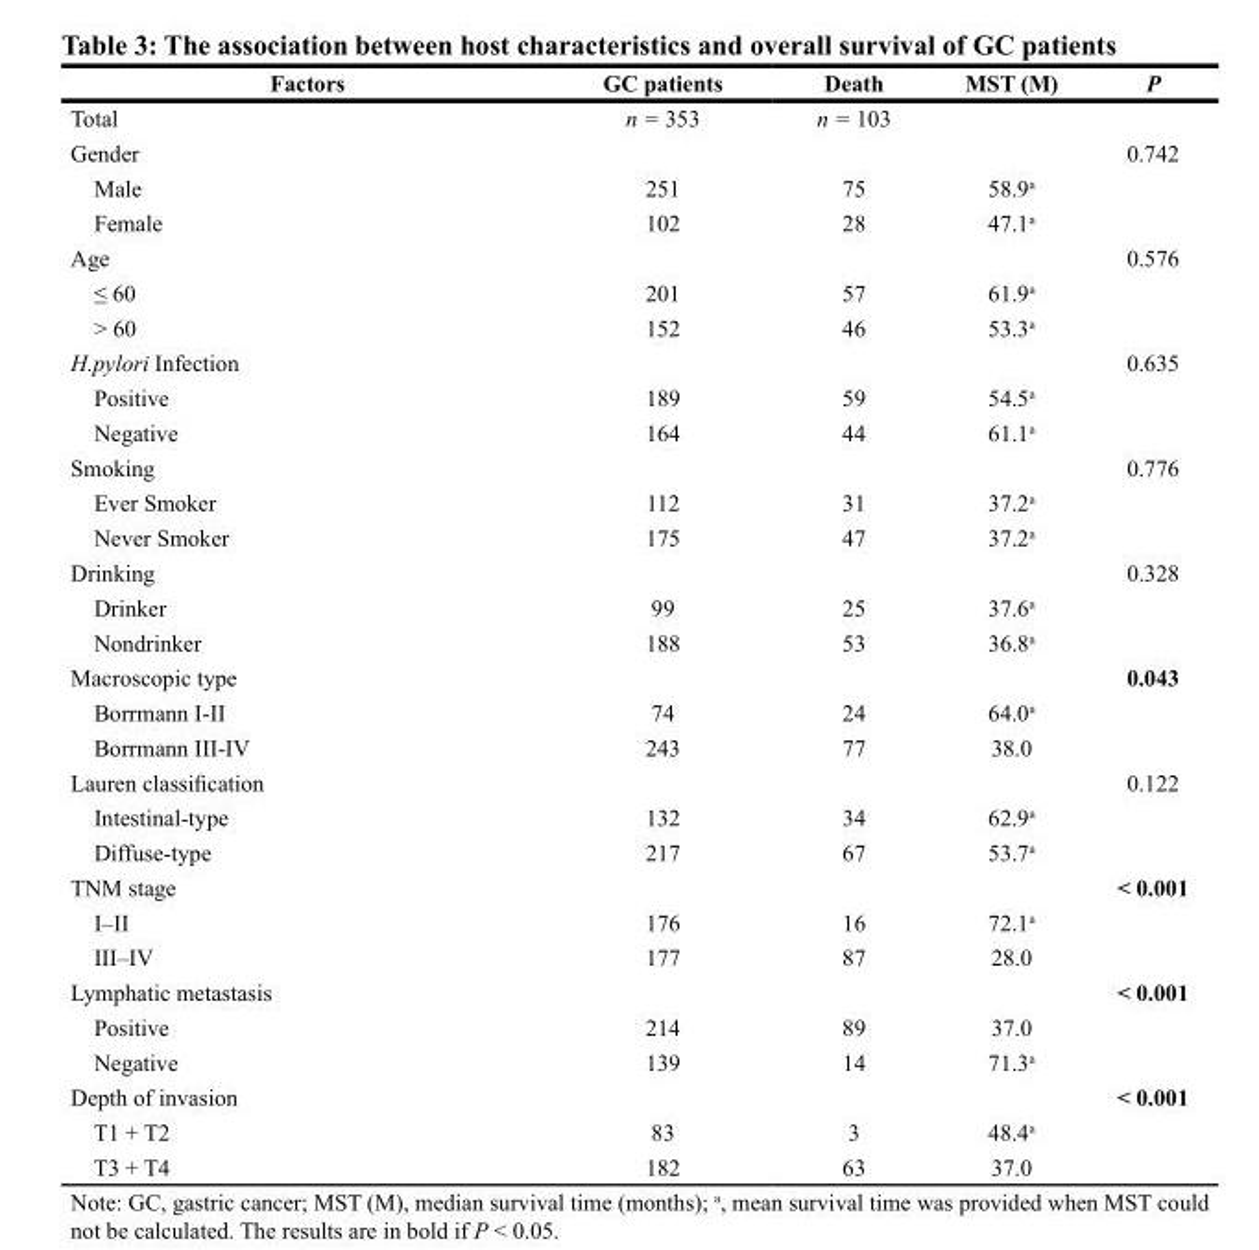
<table><thead><tr><td>Factors</td><td>GC patients</td><td>Death</td><td>MST (M)</td><td>P</td></tr></thead><tbody><tr><td>Total</td><td>n = 353</td><td>n = 103</td><td></td><td></td></tr><tr><td>Gender</td><td></td><td></td><td></td><td>0.742</td></tr><tr><td>Male</td><td>251</td><td>75</td><td>58.9<sup>a</sup></td><td></td></tr><tr><td>Female</td><td>102</td><td>28</td><td>47.1<sup>a</sup></td><td></td></tr><tr><td>Age</td><td></td><td></td><td></td><td>0.576</td></tr><tr><td>≤ 60</td><td>201</td><td>57</td><td>61.9<sup>a</sup></td><td></td></tr><tr><td>&gt; 60</td><td>152</td><td>46</td><td>53.3<sup>a</sup></td><td></td></tr><tr><td>H.pylori Infection</td><td></td><td></td><td></td><td>0.635</td></tr><tr><td>Positive</td><td>189</td><td>59</td><td>54.5<sup>a</sup></td><td></td></tr><tr><td>Negative</td><td>164</td><td>44</td><td>61.1<sup>a</sup></td><td></td></tr><tr><td>Smoking</td><td></td><td></td><td></td><td>0.776</td></tr><tr><td>Ever Smoker</td><td>112</td><td>31</td><td>37.2<sup>a</sup></td><td></td></tr><tr><td>Never Smoker</td><td>175</td><td>47</td><td>37.2<sup>a</sup></td><td></td></tr><tr><td>Drinking</td><td></td><td></td><td></td><td>0.328</td></tr><tr><td>Drinker</td><td>99</td><td>25</td><td>37.6<sup>a</sup></td><td></td></tr><tr><td>Nondrinker</td><td>188</td><td>53</td><td>36.8<sup>a</sup></td><td></td></tr><tr><td>Macroscopic type</td><td></td><td></td><td></td><td>0.043</td></tr><tr><td>Borrmann I-II</td><td>74</td><td>24</td><td>64.0<sup>a</sup></td><td></td></tr><tr><td>Borrmann III-IV</td><td>243</td><td>77</td><td>38.0</td><td></td></tr><tr><td>Lauren classification</td><td></td><td></td><td></td><td>0.122</td></tr><tr><td>Intestinal-type</td><td>132</td><td>34</td><td>62.9<sup>a</sup></td><td></td></tr><tr><td>Diffuse-type</td><td>217</td><td>67</td><td>53.7<sup>a</sup></td><td></td></tr><tr><td>TNM stage</td><td></td><td></td><td></td><td>&lt; 0.001</td></tr><tr><td>I–II</td><td>176</td><td>16</td><td>72.1<sup>a</sup></td><td></td></tr><tr><td>III–IV</td><td>177</td><td>87</td><td>28.0</td><td></td></tr><tr><td>Lymphatic metastasis</td><td></td><td></td><td></td><td>&lt; 0.001</td></tr><tr><td>Positive</td><td>214</td><td>89</td><td>37.0</td><td></td></tr><tr><td>Negative</td><td>139</td><td>14</td><td>71.3<sup>a</sup></td><td></td></tr><tr><td>Depth of invasion</td><td></td><td></td><td></td><td>&lt; 0.001</td></tr><tr><td>T1 + T2</td><td>83</td><td>3</td><td>48.4<sup>a</sup></td><td></td></tr><tr><td>T3 + T4</td><td>182</td><td>63</td><td>37.0</td><td></td></tr></tbody></table>